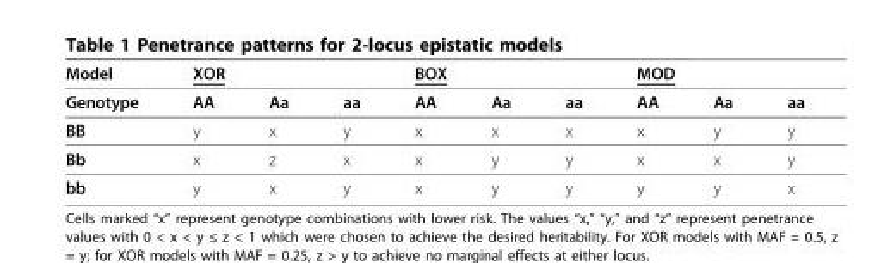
<table><thead><tr><td rowspan="2">Model Genotype</td><td colspan="3">XOR</td><td colspan="3">BOX</td><td colspan="3">MOD</td></tr><tr><td>AA</td><td>Aa</td><td>aa</td><td>AA</td><td>Aa</td><td>aa</td><td>AA</td><td>Aa</td><td>aa</td></tr></thead><tbody><tr><td>BB</td><td>y</td><td>x</td><td>y</td><td>x</td><td>x</td><td>x</td><td>x</td><td>y</td><td>y</td></tr><tr><td>Bb</td><td>x</td><td>z</td><td>x</td><td>x</td><td>y</td><td>y</td><td>x</td><td>x</td><td>y</td></tr><tr><td>bb</td><td>y</td><td>x</td><td>y</td><td>x</td><td>y</td><td>y</td><td>y</td><td>y</td><td>x</td></tr></tbody></table>